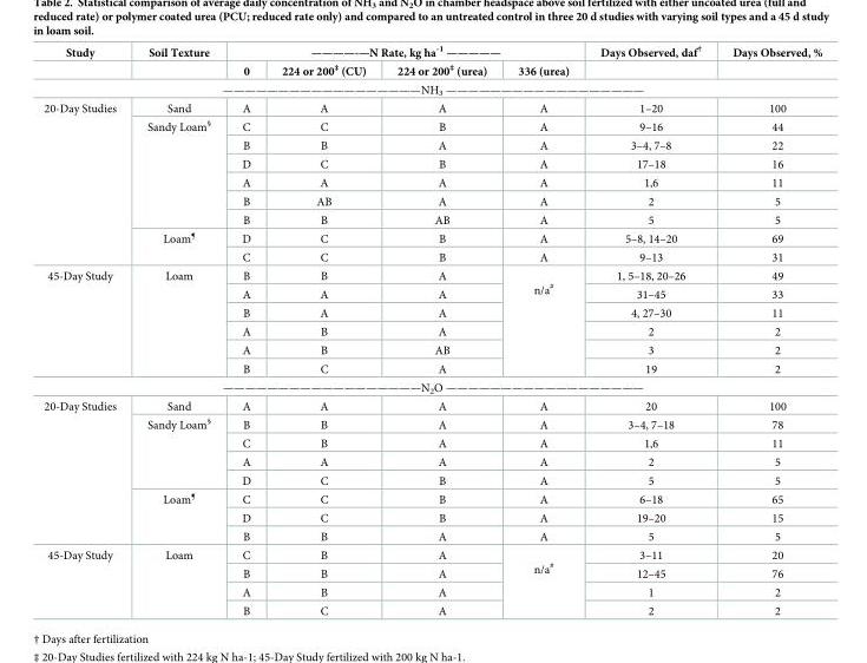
<table><thead><tr><td rowspan="2">Study</td><td rowspan="2">Soil Texture</td><td colspan="4">————-—N Rate, kg ha<sup>-1</sup> —————</td><td rowspan="2">Days Observed, daf<sup>†</sup></td><td rowspan="2">Days Observed, %</td></tr><tr><td>0</td><td>224 or 200<sup>‡</sup> (CU)</td><td>224 or 200<sup>‡</sup> (urea)</td><td>336 (urea)</td></tr></thead><tbody><tr><td colspan="8">——————————————————NH<sub>3</sub> ——————————————————</td></tr><tr><td rowspan="9">20-Day Studies</td><td>Sand</td><td>A</td><td>A</td><td>A</td><td>A</td><td>1–20</td><td>100</td></tr><tr><td rowspan="6">Sandy Loam<sup>§</sup></td><td>C</td><td>C</td><td>B</td><td>A</td><td>9–16</td><td>44</td></tr><tr><td>B</td><td>B</td><td>A</td><td>A</td><td>3–4, 7–8</td><td>22</td></tr><tr><td>D</td><td>C</td><td>B</td><td>A</td><td>17–18</td><td>16</td></tr><tr><td>A</td><td>A</td><td>A</td><td>A</td><td>1,6</td><td>11</td></tr><tr><td>B</td><td>AB</td><td>A</td><td>A</td><td>2</td><td>5</td></tr><tr><td>B</td><td>B</td><td>AB</td><td>A</td><td>5</td><td>5</td></tr><tr><td rowspan="2">Loam<sup>¶</sup></td><td>D</td><td>C</td><td>B</td><td>A</td><td>5–8, 14–20</td><td>69</td></tr><tr><td>C</td><td>C</td><td>B</td><td>A</td><td>9–13</td><td>31</td></tr><tr><td rowspan="6">45-Day Study</td><td rowspan="6">Loam</td><td>B</td><td>B</td><td>A</td><td rowspan="6">n/a<sup>#</sup></td><td>1, 5–18, 20–26</td><td>49</td></tr><tr><td>A</td><td>A</td><td>A</td><td>31–45</td><td>33</td></tr><tr><td>B</td><td>A</td><td>A</td><td>4, 27–30</td><td>11</td></tr><tr><td>A</td><td>B</td><td>A</td><td>2</td><td>2</td></tr><tr><td>A</td><td>B</td><td>AB</td><td>3</td><td>2</td></tr><tr><td>B</td><td>C</td><td>A</td><td>19</td><td>2</td></tr><tr><td colspan="8">——————————————————N<sub>2</sub>O ——————————————————</td></tr><tr><td rowspan="8">20-Day Studies</td><td>Sand</td><td>A</td><td>A</td><td>A</td><td>A</td><td>20</td><td>100</td></tr><tr><td rowspan="4">Sandy Loam<sup>§</sup></td><td>B</td><td>B</td><td>A</td><td>A</td><td>3–4, 7–18</td><td>78</td></tr><tr><td>C</td><td>B</td><td>A</td><td>A</td><td>1,6</td><td>11</td></tr><tr><td>A</td><td>A</td><td>A</td><td>A</td><td>2</td><td>5</td></tr><tr><td>D</td><td>C</td><td>B</td><td>A</td><td>5</td><td>5</td></tr><tr><td rowspan="3">Loam<sup>¶</sup></td><td>C</td><td>C</td><td>B</td><td>A</td><td>6–18</td><td>65</td></tr><tr><td>D</td><td>C</td><td>B</td><td>A</td><td>19–20</td><td>15</td></tr><tr><td>B</td><td>B</td><td>A</td><td>A</td><td>5</td><td>5</td></tr><tr><td rowspan="4">45-Day Study</td><td rowspan="4">Loam</td><td>C</td><td>B</td><td>A</td><td rowspan="4">n/a<sup>#</sup></td><td>3–11</td><td>20</td></tr><tr><td>B</td><td>B</td><td>A</td><td>12–45</td><td>76</td></tr><tr><td>A</td><td>B</td><td>A</td><td>1</td><td>2</td></tr><tr><td>B</td><td>C</td><td>A</td><td>2</td><td>2</td></tr></tbody></table>